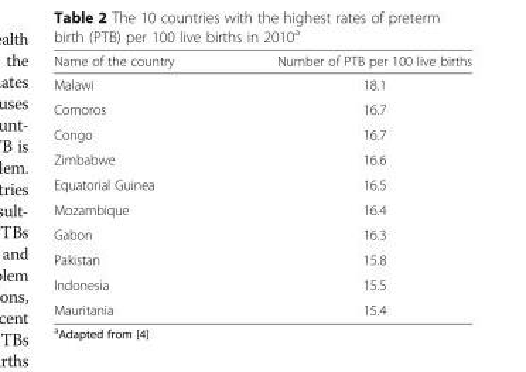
<table><thead><tr><td>Name of the country</td><td>Number of PTB per 100 live births</td></tr></thead><tbody><tr><td>Malawi</td><td>18.1</td></tr><tr><td>Comoros</td><td>16.7</td></tr><tr><td>Congo</td><td>16.7</td></tr><tr><td>Zimbabwe</td><td>16.6</td></tr><tr><td>Equatorial Guinea</td><td>16.5</td></tr><tr><td>Mozambique</td><td>16.4</td></tr><tr><td>Gabon</td><td>16.3</td></tr><tr><td>Pakistan</td><td>15.8</td></tr><tr><td>Indonesia</td><td>15.5</td></tr><tr><td>Mauritania</td><td>15.4</td></tr></tbody></table>